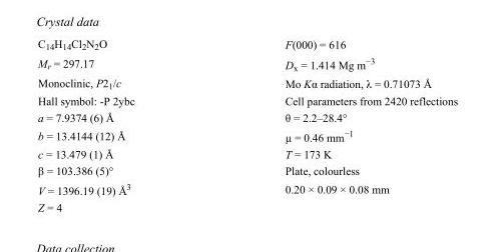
<table><tbody><tr><td>C<sub>14</sub>H<sub>14</sub>Cl<sub>2</sub>N<sub>2</sub>O</td><td>F(000) = 616</td></tr><tr><td>M<sub>r</sub> = 297.17</td><td>D<sub>x</sub> = 1.414 Mg m<sup>−3</sup></td></tr><tr><td>Monoclinic, P2<sub>1</sub>/c</td><td>Mo Kα radiation, λ = 0.71073 Å</td></tr><tr><td>Hall symbol: -P 2ybc</td><td>Cell parameters from 2420 reflections</td></tr><tr><td>a = 7.9374 (6) Å</td><td>θ = 2.2–28.4°</td></tr><tr><td>b = 13.4144 (12) Å</td><td>µ = 0.46 mm<sup>−1</sup></td></tr><tr><td>c = 13.479 (1) Å</td><td>T = 173 K</td></tr><tr><td>β = 103.386 (5)°</td><td>Plate, colourless</td></tr><tr><td>V = 1396.19 (19) Å<sup>3</sup></td><td>0.20 × 0.09 × 0.08 mm</td></tr><tr><td>Z = 4</td><td></td></tr></tbody></table>